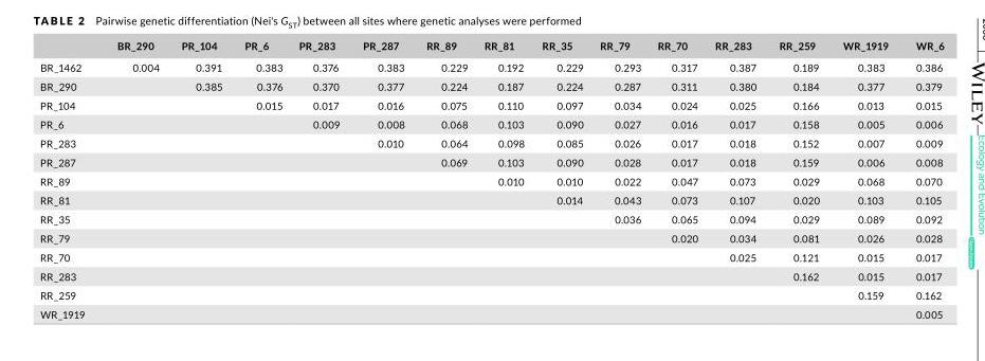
<table><thead><tr><td></td><td>BR_290</td><td>PR_104</td><td>PR_6</td><td>PR_283</td><td>PR_287</td><td>RR_89</td><td>RR_81</td><td>RR_35</td><td>RR_79</td><td>RR_70</td><td>RR_283</td><td>RR_259</td><td>WR_1919</td><td>WR_6</td></tr></thead><tbody><tr><td>BR_1462</td><td>0.004</td><td>0.391</td><td>0.383</td><td>0.376</td><td>0.383</td><td>0.229</td><td>0.192</td><td>0.229</td><td>0.293</td><td>0.317</td><td>0.387</td><td>0.189</td><td>0.383</td><td>0.386</td></tr><tr><td>BR_290</td><td></td><td>0.385</td><td>0.376</td><td>0.370</td><td>0.377</td><td>0.224</td><td>0.187</td><td>0.224</td><td>0.287</td><td>0.311</td><td>0.380</td><td>0.184</td><td>0.377</td><td>0.379</td></tr><tr><td>PR_104</td><td></td><td></td><td>0.015</td><td>0.017</td><td>0.016</td><td>0.075</td><td>0.110</td><td>0.097</td><td>0.034</td><td>0.024</td><td>0.025</td><td>0.166</td><td>0.013</td><td>0.015</td></tr><tr><td>PR_6</td><td></td><td></td><td></td><td>0.009</td><td>0.008</td><td>0.068</td><td>0.103</td><td>0.090</td><td>0.027</td><td>0.016</td><td>0.017</td><td>0.158</td><td>0.005</td><td>0.006</td></tr><tr><td>PR_283</td><td></td><td></td><td></td><td></td><td>0.010</td><td>0.064</td><td>0.098</td><td>0.085</td><td>0.026</td><td>0.017</td><td>0.018</td><td>0.152</td><td>0.007</td><td>0.009</td></tr><tr><td>PR_287</td><td></td><td></td><td></td><td></td><td></td><td>0.069</td><td>0.103</td><td>0.090</td><td>0.028</td><td>0.017</td><td>0.018</td><td>0.159</td><td>0.006</td><td>0.008</td></tr><tr><td>RR_89</td><td></td><td></td><td></td><td></td><td></td><td></td><td>0.010</td><td>0.010</td><td>0.022</td><td>0.047</td><td>0.073</td><td>0.029</td><td>0.068</td><td>0.070</td></tr><tr><td>RR_81</td><td></td><td></td><td></td><td></td><td></td><td></td><td></td><td>0.014</td><td>0.043</td><td>0.073</td><td>0.107</td><td>0.020</td><td>0.103</td><td>0.105</td></tr><tr><td>RR_35</td><td></td><td></td><td></td><td></td><td></td><td></td><td></td><td></td><td>0.036</td><td>0.065</td><td>0.094</td><td>0.029</td><td>0.089</td><td>0.092</td></tr><tr><td>RR_79</td><td></td><td></td><td></td><td></td><td></td><td></td><td></td><td></td><td></td><td>0.020</td><td>0.034</td><td>0.081</td><td>0.026</td><td>0.028</td></tr><tr><td>RR_70</td><td></td><td></td><td></td><td></td><td></td><td></td><td></td><td></td><td></td><td></td><td>0.025</td><td>0.121</td><td>0.015</td><td>0.017</td></tr><tr><td>RR_283</td><td></td><td></td><td></td><td></td><td></td><td></td><td></td><td></td><td></td><td></td><td></td><td>0.162</td><td>0.015</td><td>0.017</td></tr><tr><td>RR_259</td><td></td><td></td><td></td><td></td><td></td><td></td><td></td><td></td><td></td><td></td><td></td><td></td><td>0.159</td><td>0.162</td></tr><tr><td>WR_1919</td><td></td><td></td><td></td><td></td><td></td><td></td><td></td><td></td><td></td><td></td><td></td><td></td><td></td><td>0.005</td></tr></tbody></table>